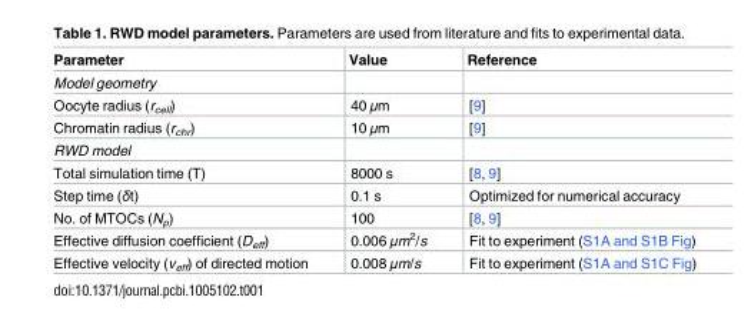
<table><thead><tr><td>Parameter</td><td>Value</td><td>Reference</td></tr></thead><tbody><tr><td colspan="3">Model geometry</td></tr><tr><td>Oocyte radius (r<sub>cell</sub>)</td><td>40 μm</td><td>[9]</td></tr><tr><td>Chromatin radius (r<sub>chr</sub>)</td><td>10 μm</td><td>[9]</td></tr><tr><td colspan="3">RWD model</td></tr><tr><td>Total simulation time (T)</td><td>8000 s</td><td>[8, 9]</td></tr><tr><td>Step time (δt)</td><td>0.1 s</td><td>Optimized for numerical accuracy</td></tr><tr><td>No. of MTOCs (N<sub>p</sub>)</td><td>100</td><td>[8, 9]</td></tr><tr><td>Effective diffusion coefficient (D<sub>eff</sub>)</td><td>0.006 μm<sup>2</sup>/s</td><td>Fit to experiment (S1A and S1B Fig)</td></tr><tr><td>Effective velocity (v<sub>eff</sub>) of directed motion</td><td>0.008 μm/s</td><td>Fit to experiment (S1A and S1C Fig)</td></tr></tbody></table>